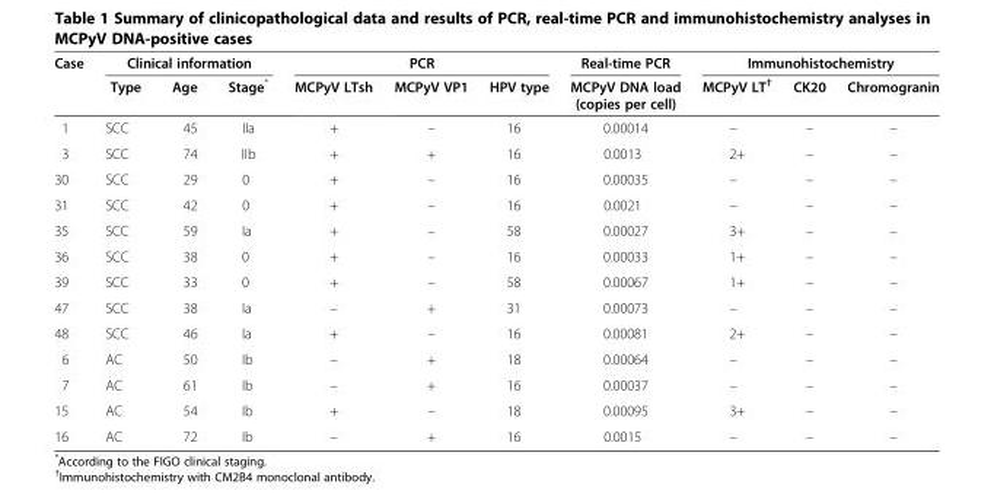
<table><thead><tr><td rowspan="2">Case</td><td colspan="3">Clinical information</td><td colspan="3">PCR</td><td rowspan="2">Real-time PCR MCPyV DNA load (copies per cell)</td><td colspan="3">Immunohistochemistry</td></tr><tr><td>Type</td><td>Age</td><td>Stage*</td><td>MCPyV LTsh</td><td>MCPyV VP1</td><td>HPV type</td><td>MCPyV LT<sup>†</sup></td><td>CK20</td><td>Chromogranin</td></tr></thead><tbody><tr><td>1</td><td>SCC</td><td>45</td><td>IIa</td><td>+</td><td>–</td><td>16</td><td>0.00014</td><td>–</td><td>–</td><td>–</td></tr><tr><td>3</td><td>SCC</td><td>74</td><td>IIb</td><td>+</td><td>+</td><td>16</td><td>0.0013</td><td>2+</td><td>–</td><td>–</td></tr><tr><td>30</td><td>SCC</td><td>29</td><td>0</td><td>+</td><td>–</td><td>16</td><td>0.00035</td><td>–</td><td>–</td><td>–</td></tr><tr><td>31</td><td>SCC</td><td>42</td><td>0</td><td>+</td><td>–</td><td>16</td><td>0.0021</td><td>–</td><td>–</td><td>–</td></tr><tr><td>35</td><td>SCC</td><td>59</td><td>Ia</td><td>+</td><td>–</td><td>58</td><td>0.00027</td><td>3+</td><td>–</td><td>–</td></tr><tr><td>36</td><td>SCC</td><td>38</td><td>0</td><td>+</td><td>–</td><td>16</td><td>0.00033</td><td>1+</td><td>–</td><td>–</td></tr><tr><td>39</td><td>SCC</td><td>33</td><td>0</td><td>+</td><td>–</td><td>58</td><td>0.00067</td><td>1+</td><td>–</td><td>–</td></tr><tr><td>47</td><td>SCC</td><td>38</td><td>Ia</td><td>–</td><td>+</td><td>31</td><td>0.00073</td><td>–</td><td>–</td><td>–</td></tr><tr><td>48</td><td>SCC</td><td>46</td><td>Ia</td><td>+</td><td>–</td><td>16</td><td>0.00081</td><td>2+</td><td>–</td><td>–</td></tr><tr><td>6</td><td>AC</td><td>50</td><td>Ib</td><td>–</td><td>+</td><td>18</td><td>0.00064</td><td>–</td><td>–</td><td>–</td></tr><tr><td>7</td><td>AC</td><td>61</td><td>Ib</td><td>–</td><td>+</td><td>16</td><td>0.00037</td><td>–</td><td>–</td><td>–</td></tr><tr><td>15</td><td>AC</td><td>54</td><td>Ib</td><td>+</td><td>–</td><td>18</td><td>0.00095</td><td>3+</td><td>–</td><td>–</td></tr><tr><td>16</td><td>AC</td><td>72</td><td>Ib</td><td>–</td><td>+</td><td>16</td><td>0.0015</td><td>–</td><td>–</td><td>–</td></tr></tbody></table>